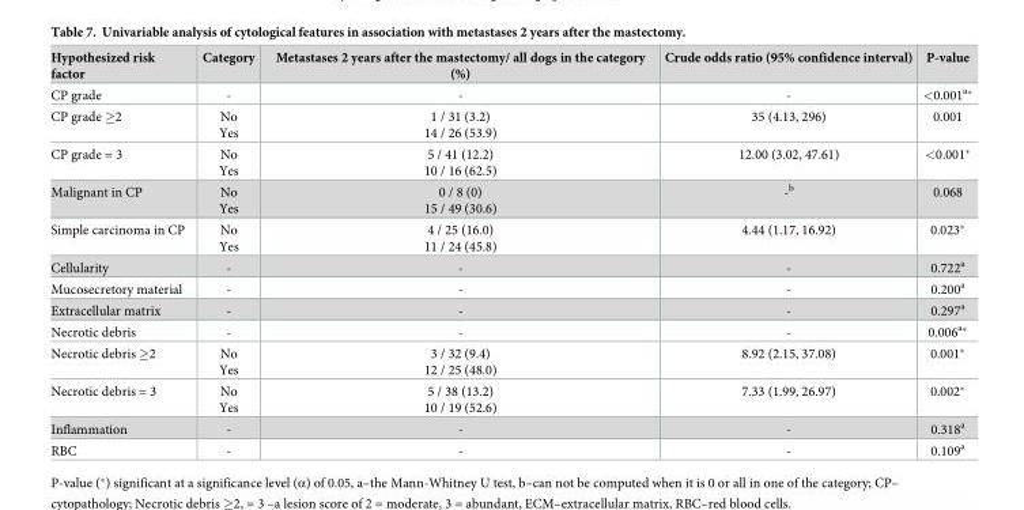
<table><thead><tr><td>Hypothesized risk factor</td><td>Category</td><td>Metastases 2 years after the mastectomy/ all dogs in the category (%)</td><td>Crude odds ratio (95% confidence interval)</td><td>P-value</td></tr></thead><tbody><tr><td>CP grade</td><td>-</td><td>-</td><td>-</td><td>&lt;0.001<sup>a</sup>*</td></tr><tr><td>CP grade ≥2</td><td>No Yes</td><td>1 / 31 (3.2) 14 / 26 (53.9)</td><td>35 (4.13, 296)</td><td>0.001</td></tr><tr><td>CP grade = 3</td><td>No Yes</td><td>5 / 41 (12.2) 10 / 16 (62.5)</td><td>12.00 (3.02, 47.61)</td><td>&lt;0.001*</td></tr><tr><td>Malignant in CP</td><td>No Yes</td><td>0 / 8 (0) 15 / 49 (30.6)</td><td>-<sup>b</sup></td><td>0.068</td></tr><tr><td>Simple carcinoma in CP</td><td>No Yes</td><td>4 / 25 (16.0) 11 / 24 (45.8)</td><td>4.44 (1.17, 16.92)</td><td>0.023*</td></tr><tr><td>Cellularity</td><td>-</td><td>-</td><td>-</td><td>0.722<sup>a</sup></td></tr><tr><td>Mucosecretory material</td><td>-</td><td>-</td><td>-</td><td>0.200<sup>a</sup></td></tr><tr><td>Extracellular matrix</td><td>-</td><td>-</td><td>-</td><td>0.297<sup>a</sup></td></tr><tr><td>Necrotic debris</td><td>-</td><td>-</td><td>-</td><td>0.006<sup>a</sup>*</td></tr><tr><td>Necrotic debris ≥2</td><td>No Yes</td><td>3 / 32 (9.4) 12 / 25 (48.0)</td><td>8.92 (2.15, 37.08)</td><td>0.001*</td></tr><tr><td>Necrotic debris = 3</td><td>No Yes</td><td>5 / 38 (13.2) 10 / 19 (52.6)</td><td>7.33 (1.99, 26.97)</td><td>0.002*</td></tr><tr><td>Inflammation</td><td>-</td><td>-</td><td>-</td><td>0.318<sup>a</sup></td></tr><tr><td>RBC</td><td>-</td><td>-</td><td>-</td><td>0.109<sup>a</sup></td></tr></tbody></table>